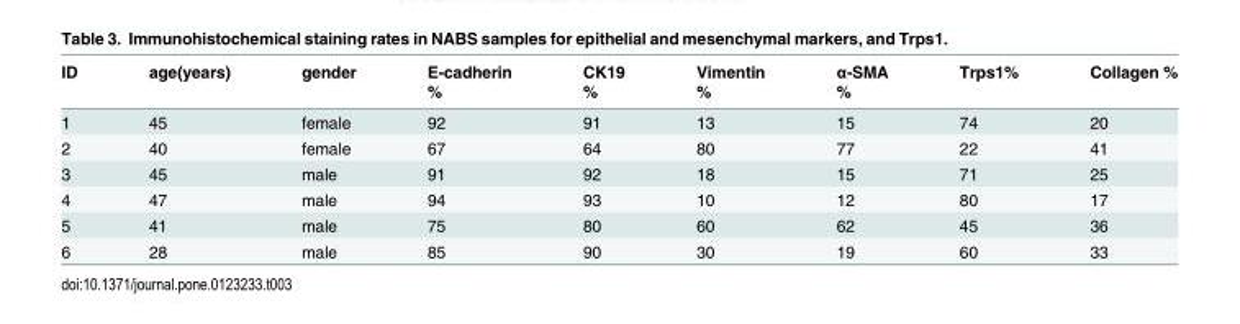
<table><thead><tr><td rowspan="2">ID</td><td rowspan="2">age(years)</td><td rowspan="2">gender</td><td rowspan="2">E-cadherin %</td><td rowspan="2">CK19 %</td><td rowspan="2">Vimentin %</td><td rowspan="2">α-SMA %</td><td rowspan="2">Trps1%</td><td rowspan="2">Collagen %</td></tr><tr></tr></thead><tbody><tr><td>1</td><td>45</td><td>female</td><td>92</td><td>91</td><td>13</td><td>15</td><td>74</td><td>20</td></tr><tr><td>2</td><td>40</td><td>female</td><td>67</td><td>64</td><td>80</td><td>77</td><td>22</td><td>41</td></tr><tr><td>3</td><td>45</td><td>male</td><td>91</td><td>92</td><td>18</td><td>15</td><td>71</td><td>25</td></tr><tr><td>4</td><td>47</td><td>male</td><td>94</td><td>93</td><td>10</td><td>12</td><td>80</td><td>17</td></tr><tr><td>5</td><td>41</td><td>male</td><td>75</td><td>80</td><td>60</td><td>62</td><td>45</td><td>36</td></tr><tr><td>6</td><td>28</td><td>male</td><td>85</td><td>90</td><td>30</td><td>19</td><td>60</td><td>33</td></tr></tbody></table>